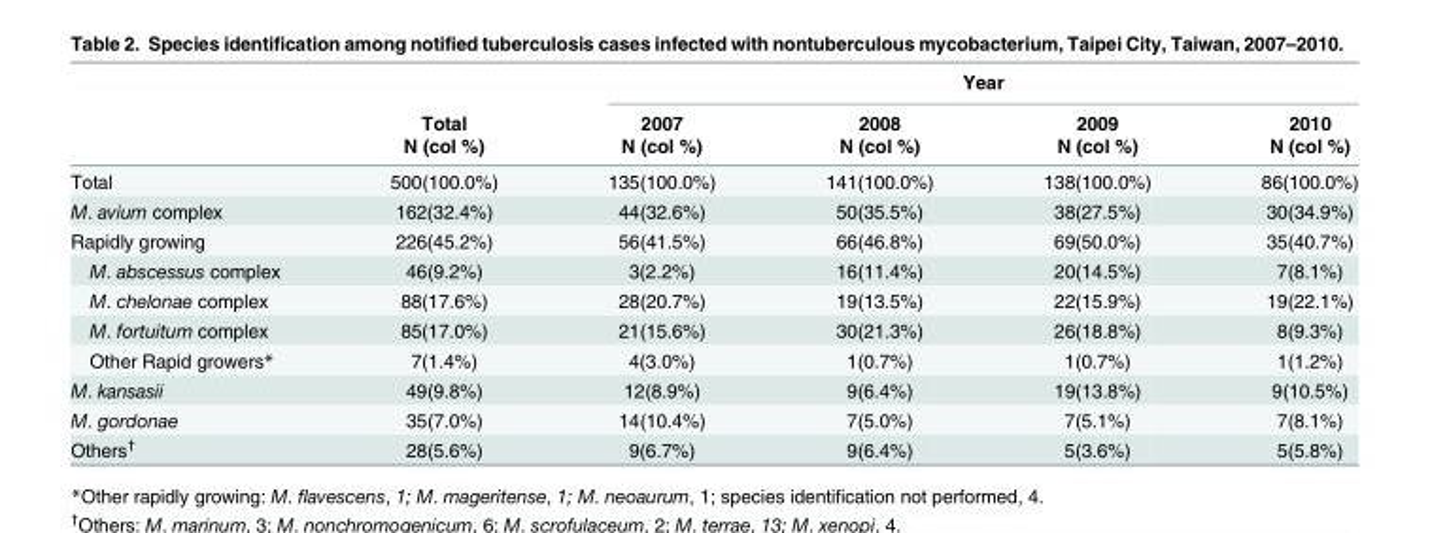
<table><thead><tr><td rowspan="3"></td><td rowspan="3">Total N (col %)</td><td colspan="4">Year</td></tr><tr><td rowspan="2">2007 N (col %)</td><td rowspan="2">2008 N (col %)</td><td rowspan="2">2009 N (col %)</td><td rowspan="2">2010 N (col %)</td></tr><tr></tr></thead><tbody><tr><td>Total</td><td>500(100.0%)</td><td>135(100.0%)</td><td>141(100.0%)</td><td>138(100.0%)</td><td>86(100.0%)</td></tr><tr><td>M. avium complex</td><td>162(32.4%)</td><td>44(32.6%)</td><td>50(35.5%)</td><td>38(27.5%)</td><td>30(34.9%)</td></tr><tr><td>Rapidly growing</td><td>226(45.2%)</td><td>56(41.5%)</td><td>66(46.8%)</td><td>69(50.0%)</td><td>35(40.7%)</td></tr><tr><td>M. abscessus complex</td><td>46(9.2%)</td><td>3(2.2%)</td><td>16(11.4%)</td><td>20(14.5%)</td><td>7(8.1%)</td></tr><tr><td>M. chelonae complex</td><td>88(17.6%)</td><td>28(20.7%)</td><td>19(13.5%)</td><td>22(15.9%)</td><td>19(22.1%)</td></tr><tr><td>M. fortuitum complex</td><td>85(17.0%)</td><td>21(15.6%)</td><td>30(21.3%)</td><td>26(18.8%)</td><td>8(9.3%)</td></tr><tr><td>Other Rapid growers*</td><td>7(1.4%)</td><td>4(3.0%)</td><td>1(0.7%)</td><td>1(0.7%)</td><td>1(1.2%)</td></tr><tr><td>M. kansasii</td><td>49(9.8%)</td><td>12(8.9%)</td><td>9(6.4%)</td><td>19(13.8%)</td><td>9(10.5%)</td></tr><tr><td>M. gordonae</td><td>35(7.0%)</td><td>14(10.4%)</td><td>7(5.0%)</td><td>7(5.1%)</td><td>7(8.1%)</td></tr><tr><td>Others<sup>†</sup></td><td>28(5.6%)</td><td>9(6.7%)</td><td>9(6.4%)</td><td>5(3.6%)</td><td>5(5.8%)</td></tr></tbody></table>